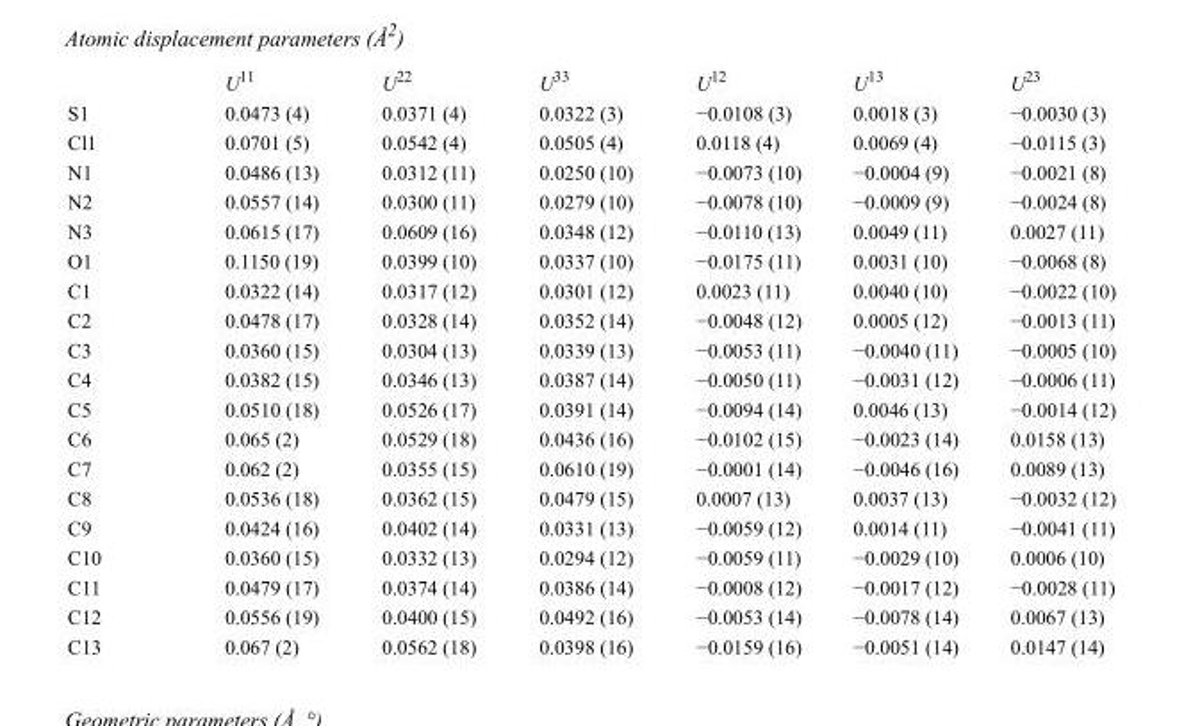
<table><thead><tr><td></td><td>U<sup>11</sup></td><td>U<sup>22</sup></td><td>U<sup>33</sup></td><td>U<sup>12</sup></td><td>U<sup>13</sup></td><td>U<sup>23</sup></td></tr></thead><tbody><tr><td>S1</td><td>0.0473 (4)</td><td>0.0371 (4)</td><td>0.0322 (3)</td><td>−0.0108 (3)</td><td>0.0018 (3)</td><td>−0.0030 (3)</td></tr><tr><td>Cl1</td><td>0.0701 (5)</td><td>0.0542 (4)</td><td>0.0505 (4)</td><td>0.0118 (4)</td><td>0.0069 (4)</td><td>−0.0115 (3)</td></tr><tr><td>N1</td><td>0.0486 (13)</td><td>0.0312 (11)</td><td>0.0250 (10)</td><td>−0.0073 (10)</td><td>−0.0004 (9)</td><td>−0.0021 (8)</td></tr><tr><td>N2</td><td>0.0557 (14)</td><td>0.0300 (11)</td><td>0.0279 (10)</td><td>−0.0078 (10)</td><td>−0.0009 (9)</td><td>−0.0024 (8)</td></tr><tr><td>N3</td><td>0.0615 (17)</td><td>0.0609 (16)</td><td>0.0348 (12)</td><td>−0.0110 (13)</td><td>0.0049 (11)</td><td>0.0027 (11)</td></tr><tr><td>O1</td><td>0.1150 (19)</td><td>0.0399 (10)</td><td>0.0337 (10)</td><td>−0.0175 (11)</td><td>0.0031 (10)</td><td>−0.0068 (8)</td></tr><tr><td>C1</td><td>0.0322 (14)</td><td>0.0317 (12)</td><td>0.0301 (12)</td><td>0.0023 (11)</td><td>0.0040 (10)</td><td>−0.0022 (10)</td></tr><tr><td>C2</td><td>0.0478 (17)</td><td>0.0328 (14)</td><td>0.0352 (14)</td><td>−0.0048 (12)</td><td>0.0005 (12)</td><td>−0.0013 (11)</td></tr><tr><td>C3</td><td>0.0360 (15)</td><td>0.0304 (13)</td><td>0.0339 (13)</td><td>−0.0053 (11)</td><td>−0.0040 (11)</td><td>−0.0005 (10)</td></tr><tr><td>C4</td><td>0.0382 (15)</td><td>0.0346 (13)</td><td>0.0387 (14)</td><td>−0.0050 (11)</td><td>−0.0031 (12)</td><td>−0.0006 (11)</td></tr><tr><td>C5</td><td>0.0510 (18)</td><td>0.0526 (17)</td><td>0.0391 (14)</td><td>−0.0094 (14)</td><td>0.0046 (13)</td><td>−0.0014 (12)</td></tr><tr><td>C6</td><td>0.065 (2)</td><td>0.0529 (18)</td><td>0.0436 (16)</td><td>−0.0102 (15)</td><td>−0.0023 (14)</td><td>0.0158 (13)</td></tr><tr><td>C7</td><td>0.062 (2)</td><td>0.0355 (15)</td><td>0.0610 (19)</td><td>−0.0001 (14)</td><td>−0.0046 (16)</td><td>0.0089 (13)</td></tr><tr><td>C8</td><td>0.0536 (18)</td><td>0.0362 (15)</td><td>0.0479 (15)</td><td>0.0007 (13)</td><td>0.0037 (13)</td><td>−0.0032 (12)</td></tr><tr><td>C9</td><td>0.0424 (16)</td><td>0.0402 (14)</td><td>0.0331 (13)</td><td>−0.0059 (12)</td><td>0.0014 (11)</td><td>−0.0041 (11)</td></tr><tr><td>C10</td><td>0.0360 (15)</td><td>0.0332 (13)</td><td>0.0294 (12)</td><td>−0.0059 (11)</td><td>−0.0029 (10)</td><td>0.0006 (10)</td></tr><tr><td>C11</td><td>0.0479 (17)</td><td>0.0374 (14)</td><td>0.0386 (14)</td><td>−0.0008 (12)</td><td>−0.0017 (12)</td><td>−0.0028 (11)</td></tr><tr><td>C12</td><td>0.0556 (19)</td><td>0.0400 (15)</td><td>0.0492 (16)</td><td>−0.0053 (14)</td><td>−0.0078 (14)</td><td>0.0067 (13)</td></tr><tr><td>C13</td><td>0.067 (2)</td><td>0.0562 (18)</td><td>0.0398 (16)</td><td>−0.0159 (16)</td><td>−0.0051 (14)</td><td>0.0147 (14)</td></tr></tbody></table>